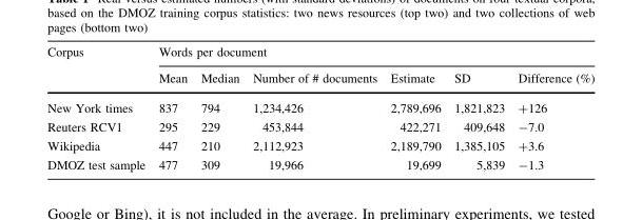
<table><thead><tr><td rowspan="2">Corpus</td><td colspan="6">Words per document</td></tr><tr><td>Mean</td><td>Median</td><td>Number of # documents</td><td>Estimate</td><td>SD</td><td>Difference (%)</td></tr></thead><tbody><tr><td>New York times</td><td>837</td><td>794</td><td>1,234,426</td><td>2,789,696</td><td>1,821,823</td><td>+126</td></tr><tr><td>Reuters RCV1</td><td>295</td><td>229</td><td>453,844</td><td>422,271</td><td>409,648</td><td>-7.0</td></tr><tr><td>Wikipedia</td><td>447</td><td>210</td><td>2,112,923</td><td>2,189,790</td><td>1,385,105</td><td>+3.6</td></tr><tr><td>DMOZ test sample</td><td>477</td><td>309</td><td>19,966</td><td>19,699</td><td>5,839</td><td>-1.3</td></tr></tbody></table>